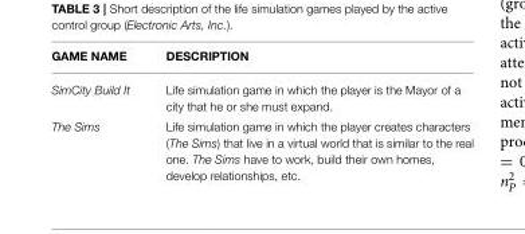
<table><thead><tr><td>GAME NAME</td><td>DESCRIPTION</td></tr></thead><tbody><tr><td>SimCity Build It</td><td>Life simulation game in which the player is the Mayor of a city that he or she must expand.</td></tr><tr><td>The Sims</td><td>Life simulation game in which the player creates characters (The Sims) that live in a virtual world that is similar to the real one. The Sims have to work, build their own homes, develop relationships, etc.</td></tr></tbody></table>